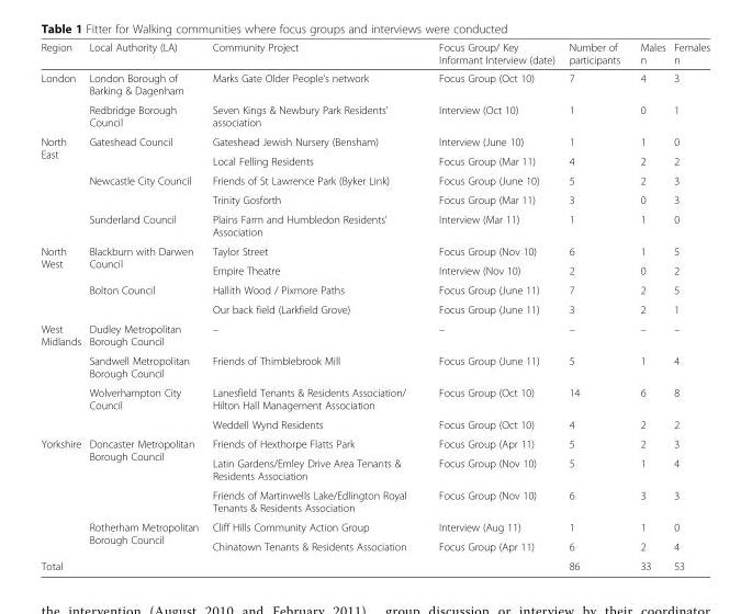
<table><thead><tr><td>Region</td><td>Local Authority (LA)</td><td>Community Project</td><td>Focus Group/ Key Informant Interview (date)</td><td>Number of participants</td><td>Males n</td><td>Females n</td></tr></thead><tbody><tr><td rowspan="2">London</td><td>London Borough of Barking &amp; Dagenham</td><td>Marks Gate Older People’s network</td><td>Focus Group (Oct 10)</td><td>7</td><td>4</td><td>3</td></tr><tr><td>Redbridge Borough Council</td><td>Seven Kings &amp; Newbury Park Residents’ association</td><td>Interview (Oct 10)</td><td>1</td><td>0</td><td>1</td></tr><tr><td rowspan="5">North East</td><td rowspan="2">Gateshead Council</td><td>Gateshead Jewish Nursery (Bensham)</td><td>Interview (June 10)</td><td>1</td><td>1</td><td>0</td></tr><tr><td>Local Felling Residents</td><td>Focus Group (Mar 11)</td><td>4</td><td>2</td><td>2</td></tr><tr><td rowspan="2">Newcastle City Council</td><td>Friends of St Lawrence Park (Byker Link)</td><td>Focus Group (June 10)</td><td>5</td><td>2</td><td>3</td></tr><tr><td>Trinity Gosforth</td><td>Focus Group (Mar 11)</td><td>3</td><td>0</td><td>3</td></tr><tr><td>Sunderland Council</td><td>Plains Farm and Humbledon Residents’ Association</td><td>Interview (Mar 11)</td><td>1</td><td>1</td><td>0</td></tr><tr><td rowspan="4">North West</td><td rowspan="2">Blackburn with Darwen Council</td><td>Taylor Street</td><td>Focus Group (Nov 10)</td><td>6</td><td>1</td><td>5</td></tr><tr><td>Empire Theatre</td><td>Interview (Nov 10)</td><td>2</td><td>0</td><td>2</td></tr><tr><td rowspan="2">Bolton Council</td><td>Hallith Wood / Pixmore Paths</td><td>Focus Group (June 11)</td><td>7</td><td>2</td><td>5</td></tr><tr><td>Our back field (Larkfield Grove)</td><td>Focus Group (June 11)</td><td>3</td><td>2</td><td>1</td></tr><tr><td rowspan="4">West Midlands</td><td>Dudley Metropolitan Borough Council</td><td>–</td><td>–</td><td>–</td><td>–</td><td>–</td></tr><tr><td>Sandwell Metropolitan Borough Council</td><td>Friends of Thimblebrook Mill</td><td>Focus Group (June 11)</td><td>5</td><td>1</td><td>4</td></tr><tr><td rowspan="2">Wolverhampton City Council</td><td>Lanesfield Tenants &amp; Residents Association/ Hilton Hall Management Association</td><td>Focus Group (Oct 10)</td><td>14</td><td>6</td><td>8</td></tr><tr><td>Weddell Wynd Residents</td><td>Focus Group (Oct 10)</td><td>4</td><td>2</td><td>2</td></tr><tr><td rowspan="5">Yorkshire</td><td rowspan="3">Doncaster Metropolitan Borough Council</td><td>Friends of Hexthorpe Flatts Park</td><td>Focus Group (Apr 11)</td><td>5</td><td>2</td><td>3</td></tr><tr><td>Latin Gardens/Emley Drive Area Tenants &amp; Residents Association</td><td>Focus Group (Nov 10)</td><td>5</td><td>1</td><td>4</td></tr><tr><td>Friends of Martinwells Lake/Edlington Royal Tenants &amp; Residents Association</td><td>Focus Group (Nov 10)</td><td>6</td><td>3</td><td>3</td></tr><tr><td rowspan="2">Rotherham Metropolitan Borough Council</td><td>Cliff Hills Community Action Group</td><td>Interview (Aug 11)</td><td>1</td><td>1</td><td>0</td></tr><tr><td>Chinatown Tenants &amp; Residents Association</td><td>Focus Group (Apr 11)</td><td>6</td><td>2</td><td>4</td></tr><tr><td>Total</td><td></td><td></td><td></td><td>86</td><td>33</td><td>53</td></tr></tbody></table>